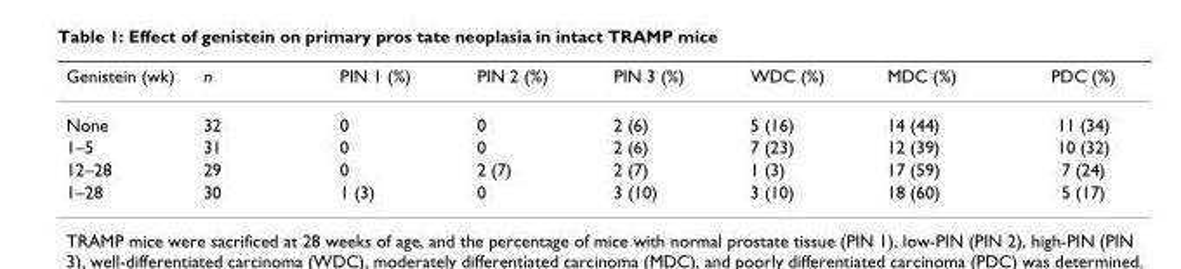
<table><thead><tr><td>Genistein (wk)</td><td>n</td><td>PIN 1 (%)</td><td>PIN 2 (%)</td><td>PIN 3 (%)</td><td>WDC (%)</td><td>MDC (%)</td><td>PDC (%)</td></tr></thead><tbody><tr><td>None</td><td>32</td><td>0</td><td>0</td><td>2 (6)</td><td>5 (16)</td><td>14 (44)</td><td>11 (34)</td></tr><tr><td>1–5</td><td>31</td><td>0</td><td>0</td><td>2 (6)</td><td>7 (23)</td><td>12 (39)</td><td>10 (32)</td></tr><tr><td>12–28</td><td>29</td><td>0</td><td>2 (7)</td><td>2 (7)</td><td>1 (3)</td><td>17 (59)</td><td>7 (24)</td></tr><tr><td>1–28</td><td>30</td><td>1 (3)</td><td>0</td><td>3 (10)</td><td>3 (10)</td><td>18 (60)</td><td>5 (17)</td></tr></tbody></table>